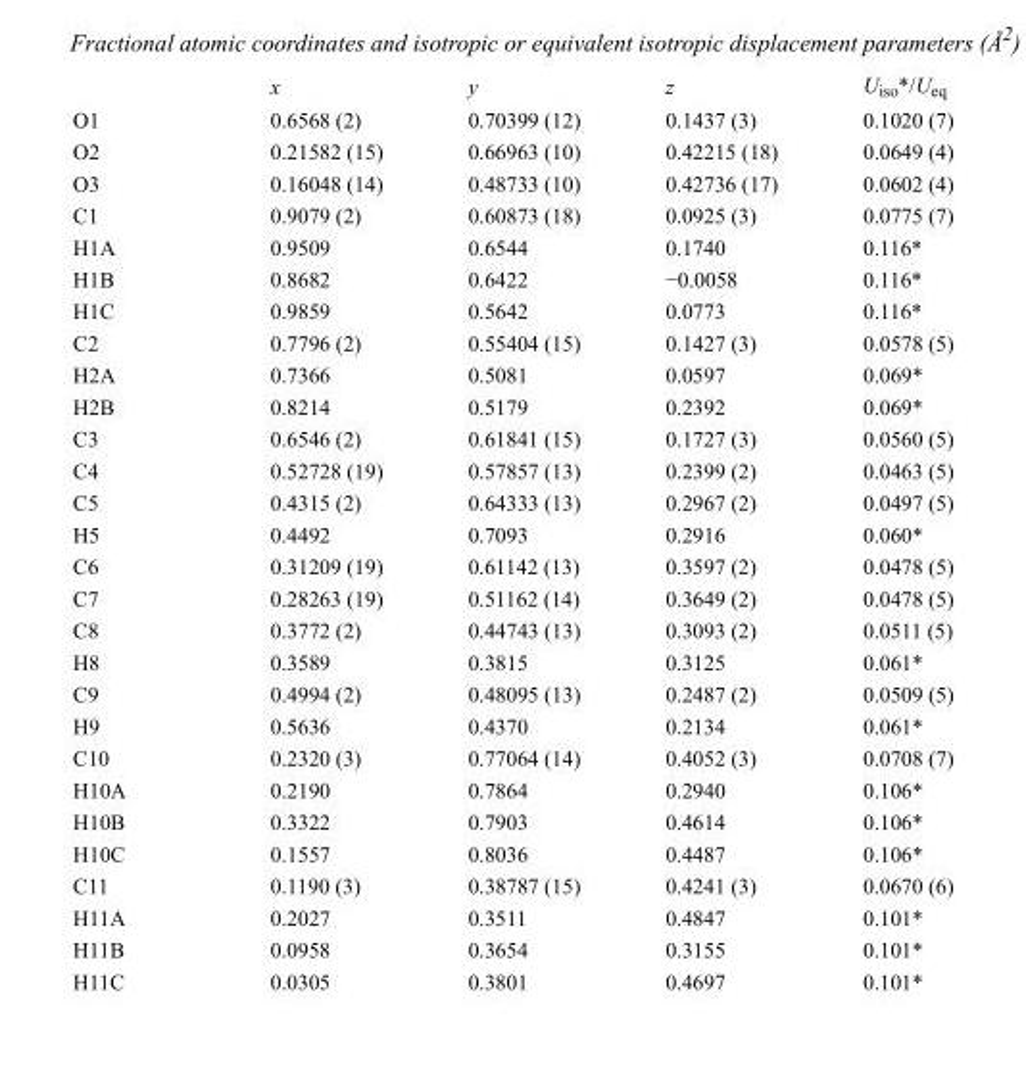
<table><thead><tr><td></td><td>x</td><td>y</td><td>z</td><td>U<sub>iso</sub>*/U<sub>eq</sub></td></tr></thead><tbody><tr><td>O1</td><td>0.6568 (2)</td><td>0.70399 (12)</td><td>0.1437 (3)</td><td>0.1020 (7)</td></tr><tr><td>O2</td><td>0.21582 (15)</td><td>0.66963 (10)</td><td>0.42215 (18)</td><td>0.0649 (4)</td></tr><tr><td>O3</td><td>0.16048 (14)</td><td>0.48733 (10)</td><td>0.42736 (17)</td><td>0.0602 (4)</td></tr><tr><td>C1</td><td>0.9079 (2)</td><td>0.60873 (18)</td><td>0.0925 (3)</td><td>0.0775 (7)</td></tr><tr><td>H1A</td><td>0.9509</td><td>0.6544</td><td>0.1740</td><td>0.116*</td></tr><tr><td>H1B</td><td>0.8682</td><td>0.6422</td><td>−0.0058</td><td>0.116*</td></tr><tr><td>H1C</td><td>0.9859</td><td>0.5642</td><td>0.0773</td><td>0.116*</td></tr><tr><td>C2</td><td>0.7796 (2)</td><td>0.55404 (15)</td><td>0.1427 (3)</td><td>0.0578 (5)</td></tr><tr><td>H2A</td><td>0.7366</td><td>0.5081</td><td>0.0597</td><td>0.069*</td></tr><tr><td>H2B</td><td>0.8214</td><td>0.5179</td><td>0.2392</td><td>0.069*</td></tr><tr><td>C3</td><td>0.6546 (2)</td><td>0.61841 (15)</td><td>0.1727 (3)</td><td>0.0560 (5)</td></tr><tr><td>C4</td><td>0.52728 (19)</td><td>0.57857 (13)</td><td>0.2399 (2)</td><td>0.0463 (5)</td></tr><tr><td>C5</td><td>0.4315 (2)</td><td>0.64333 (13)</td><td>0.2967 (2)</td><td>0.0497 (5)</td></tr><tr><td>H5</td><td>0.4492</td><td>0.7093</td><td>0.2916</td><td>0.060*</td></tr><tr><td>C6</td><td>0.31209 (19)</td><td>0.61142 (13)</td><td>0.3597 (2)</td><td>0.0478 (5)</td></tr><tr><td>C7</td><td>0.28263 (19)</td><td>0.51162 (14)</td><td>0.3649 (2)</td><td>0.0478 (5)</td></tr><tr><td>C8</td><td>0.3772 (2)</td><td>0.44743 (13)</td><td>0.3093 (2)</td><td>0.0511 (5)</td></tr><tr><td>H8</td><td>0.3589</td><td>0.3815</td><td>0.3125</td><td>0.061*</td></tr><tr><td>C9</td><td>0.4994 (2)</td><td>0.48095 (13)</td><td>0.2487 (2)</td><td>0.0509 (5)</td></tr><tr><td>H9</td><td>0.5636</td><td>0.4370</td><td>0.2134</td><td>0.061*</td></tr><tr><td>C10</td><td>0.2320 (3)</td><td>0.77064 (14)</td><td>0.4052 (3)</td><td>0.0708 (7)</td></tr><tr><td>H10A</td><td>0.2190</td><td>0.7864</td><td>0.2940</td><td>0.106*</td></tr><tr><td>H10B</td><td>0.3322</td><td>0.7903</td><td>0.4614</td><td>0.106*</td></tr><tr><td>H10C</td><td>0.1557</td><td>0.8036</td><td>0.4487</td><td>0.106*</td></tr><tr><td>C11</td><td>0.1190 (3)</td><td>0.38787 (15)</td><td>0.4241 (3)</td><td>0.0670 (6)</td></tr><tr><td>H11A</td><td>0.2027</td><td>0.3511</td><td>0.4847</td><td>0.101*</td></tr><tr><td>H11B</td><td>0.0958</td><td>0.3654</td><td>0.3155</td><td>0.101*</td></tr><tr><td>H11C</td><td>0.0305</td><td>0.3801</td><td>0.4697</td><td>0.101*</td></tr></tbody></table>